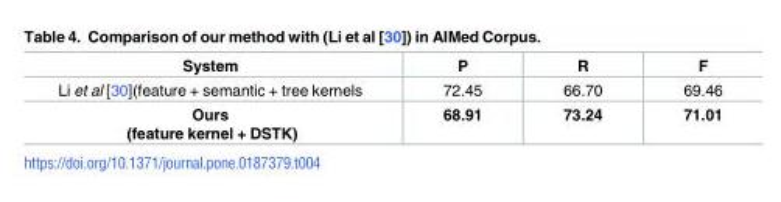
<table><thead><tr><td>System</td><td>P</td><td>R</td><td>F</td></tr></thead><tbody><tr><td>Li et al [30](feature + semantic + tree kernels</td><td>72.45</td><td>66.70</td><td>69.46</td></tr><tr><td>Ours (feature kernel + DSTK)</td><td>68.91</td><td>73.24</td><td>71.01</td></tr></tbody></table>